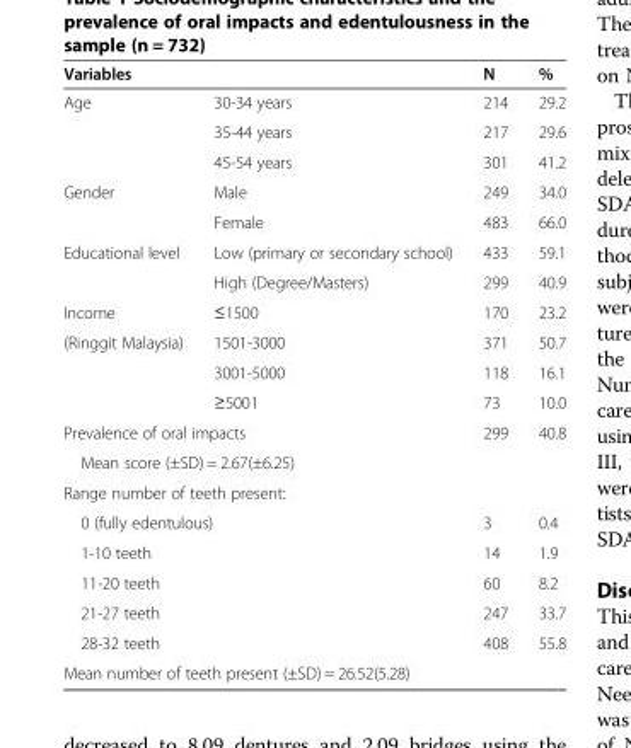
<table><thead><tr><td>Variables</td><td></td><td>N</td><td>%</td></tr></thead><tbody><tr><td rowspan="3">Age</td><td>30-34 years</td><td>214</td><td>29.2</td></tr><tr><td>35-44 years</td><td>217</td><td>29.6</td></tr><tr><td>45-54 years</td><td>301</td><td>41.2</td></tr><tr><td rowspan="2">Gender</td><td>Male</td><td>249</td><td>34.0</td></tr><tr><td>Female</td><td>483</td><td>66.0</td></tr><tr><td rowspan="2">Educational level</td><td>Low (primary or secondary school)</td><td>433</td><td>59.1</td></tr><tr><td>High (Degree/Masters)</td><td>299</td><td>40.9</td></tr><tr><td>Income</td><td>≤1500</td><td>170</td><td>23.2</td></tr><tr><td rowspan="3">(Ringgit Malaysia)</td><td>1501-3000</td><td>371</td><td>50.7</td></tr><tr><td>3001-5000</td><td>118</td><td>16.1</td></tr><tr><td>≥5001</td><td>73</td><td>10.0</td></tr><tr><td colspan="2">Prevalence of oral impacts</td><td>299</td><td>40.8</td></tr><tr><td colspan="4">Mean score (±SD) = 2.67(±6.25)</td></tr><tr><td colspan="4">Range number of teeth present:</td></tr><tr><td colspan="2">0 (fully edentulous)</td><td>3</td><td>0.4</td></tr><tr><td colspan="2">1-10 teeth</td><td>14</td><td>1.9</td></tr><tr><td colspan="2">11-20 teeth</td><td>60</td><td>8.2</td></tr><tr><td colspan="2">21-27 teeth</td><td>247</td><td>33.7</td></tr><tr><td colspan="2">28-32 teeth</td><td>408</td><td>55.8</td></tr><tr><td colspan="2">Mean number of teeth present (±SD) = 26.52(5.28)</td><td></td><td></td></tr></tbody></table>